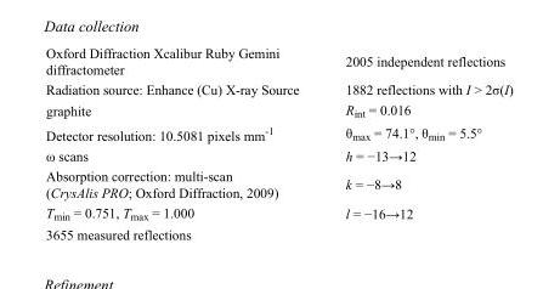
<table><tbody><tr><td>Oxford Diffraction Xcalibur Ruby Gemini diffractometer</td><td>2005 independent reflections</td></tr><tr><td>Radiation source: Enhance (Cu) X-ray Source</td><td>1882 reflections with I &gt; 2σ(I)</td></tr><tr><td>graphite</td><td>R<sub>int</sub> = 0.016</td></tr><tr><td>Detector resolution: 10.5081 pixels mm<sup>-1</sup></td><td>θ<sub>max</sub> = 74.1°, θ<sub>min</sub> = 5.5°</td></tr><tr><td>ω scans</td><td>h = −13→12</td></tr><tr><td>Absorption correction: multi-scan (CrysAlis PRO; Oxford Diffraction, 2009)</td><td>k = −8→8</td></tr><tr><td>T<sub>min</sub> = 0.751, T<sub>max</sub> = 1.000</td><td>l = −16→12</td></tr><tr><td>3655 measured reflections</td><td></td></tr></tbody></table>